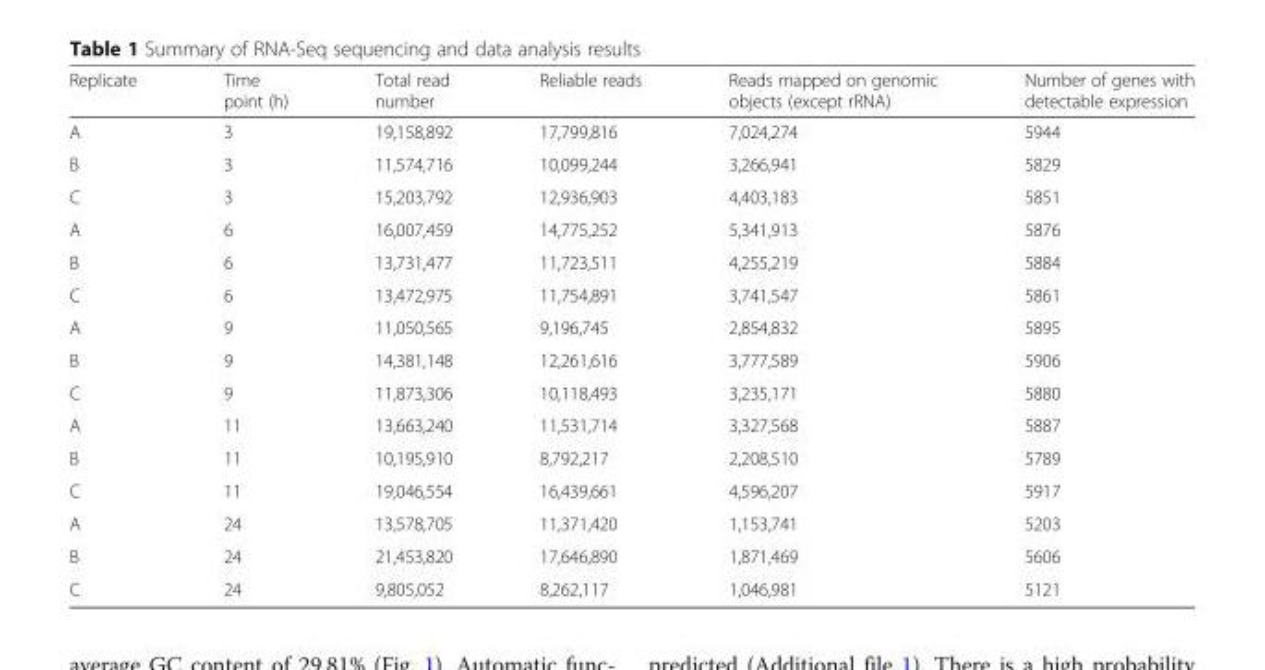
<table><thead><tr><td>Replicate</td><td>Time point (h)</td><td>Total read number</td><td>Reliable reads</td><td>Reads mapped on genomic objects (except rRNA)</td><td>Number of genes with detectable expression</td></tr></thead><tbody><tr><td>A</td><td>3</td><td>19,158,892</td><td>17,799,816</td><td>7,024,274</td><td>5944</td></tr><tr><td>B</td><td>3</td><td>11,574,716</td><td>10,099,244</td><td>3,266,941</td><td>5829</td></tr><tr><td>C</td><td>3</td><td>15,203,792</td><td>12,936,903</td><td>4,403,183</td><td>5851</td></tr><tr><td>A</td><td>6</td><td>16,007,459</td><td>14,775,252</td><td>5,341,913</td><td>5876</td></tr><tr><td>B</td><td>6</td><td>13,731,477</td><td>11,723,511</td><td>4,255,219</td><td>5884</td></tr><tr><td>C</td><td>6</td><td>13,472,975</td><td>11,754,891</td><td>3,741,547</td><td>5861</td></tr><tr><td>A</td><td>9</td><td>11,050,565</td><td>9,196,745</td><td>2,854,832</td><td>5895</td></tr><tr><td>B</td><td>9</td><td>14,381,148</td><td>12,261,616</td><td>3,777,589</td><td>5906</td></tr><tr><td>C</td><td>9</td><td>11,873,306</td><td>10,118,493</td><td>3,235,171</td><td>5880</td></tr><tr><td>A</td><td>11</td><td>13,663,240</td><td>11,531,714</td><td>3,327,568</td><td>5887</td></tr><tr><td>B</td><td>11</td><td>10,195,910</td><td>8,792,217</td><td>2,208,510</td><td>5789</td></tr><tr><td>C</td><td>11</td><td>19,046,554</td><td>16,439,661</td><td>4,596,207</td><td>5917</td></tr><tr><td>A</td><td>24</td><td>13,578,705</td><td>11,371,420</td><td>1,153,741</td><td>5203</td></tr><tr><td>B</td><td>24</td><td>21,453,820</td><td>17,646,890</td><td>1,871,469</td><td>5606</td></tr><tr><td>C</td><td>24</td><td>9,805,052</td><td>8,262,117</td><td>1,046,981</td><td>5121</td></tr></tbody></table>